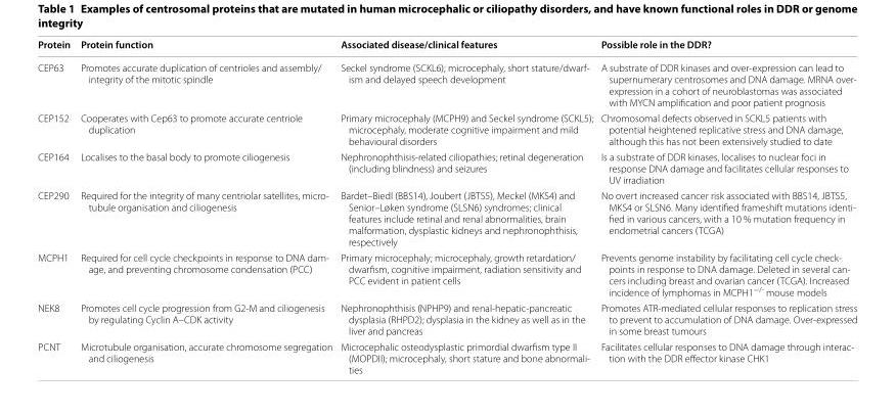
<table><thead><tr><td>Protein</td><td>Protein function</td><td>Associated disease/clinical features</td><td>Possible role in the DDR?</td></tr></thead><tbody><tr><td>CEP63</td><td>Promotes accurate duplication of centrioles and assembly/ integrity of the mitotic spindle</td><td>Seckel syndrome (SCKL6); microcephaly, short stature/dwarf- ism and delayed speech development</td><td>A substrate of DDR kinases and over-expression can lead to supernumerary centrosomes and DNA damage. MRNA over- expression in a cohort of neuroblastomas was associated with MYCN amplification and poor patient prognosis</td></tr><tr><td>CEP152</td><td>Cooperates with Cep63 to promote accurate centriole duplication</td><td>Primary microcephaly (MCPH9) and Seckel syndrome (SCKL5); microcephaly, moderate cognitive impairment and mild behavioural disorders</td><td>Chromosomal defects observed in SCKL5 patients with potential heightened replicative stress and DNA damage, although this has not been extensively studied to date</td></tr><tr><td>CEP164</td><td>Localises to the basal body to promote ciliogenesis</td><td>Nephronophthisis-related ciliopathies; retinal degeneration (including blindness) and seizures</td><td>Is a substrate of DDR kinases, localises to nuclear foci in response DNA damage and facilitates cellular responses to UV irradiation</td></tr><tr><td>CEP290</td><td>Required for the integrity of many centriolar satellites, micro- tubule organisation and ciliogenesis</td><td>Bardet–Biedl (BBS14), Joubert (JBTS5), Meckel (MKS4) and Senior–Løken syndrome (SLSN6) syndromes; clinical features include retinal and renal abnormalities, brain malformation, dysplastic kidneys and nephronophthisis, respectively</td><td>No overt increased cancer risk associated with BBS14, JBTS5, MKS4 or SLSN6. Many identified frameshift mutations identi- fied in various cancers, with a 10 % mutation frequency in endometrial cancers (TCGA)</td></tr><tr><td>MCPH1</td><td>Required for cell cycle checkpoints in response to DNA dam- age, and preventing chromosome condensation (PCC)</td><td>Primary microcephaly; microcephaly, growth retardation/ dwarfism, cognitive impairment, radiation sensitivity and PCC evident in patient cells</td><td>Prevents genome instability by facilitating cell cycle check- points in response to DNA damage. Deleted in several can- cers including breast and ovarian cancer (TCGA). Increased incidence of lymphomas in MCPH1−/- mouse models</td></tr><tr><td>NEK8</td><td>Promotes cell cycle progression from G2-M and ciliogenesis by regulating Cyclin A–CDK activity</td><td>Nephronophthisis (NPHP9) and renal-hepatic-pancreatic dysplasia (RHPD2); dysplasia in the kidney as well as in the liver and pancreas</td><td>Promotes ATR-mediated cellular responses to replication stress to prevent to accumulation of DNA damage. Over-expressed in some breast tumours</td></tr><tr><td>PCNT</td><td>Microtubule organisation, accurate chromosome segregation and ciliogenesis</td><td>Microcephalic osteodysplastic primordial dwarfism type II (MOPDII); microcephaly, short stature and bone abnormali- ties</td><td>Facilitates cellular responses to DNA damage through interac- tion with the DDR effector kinase CHK1</td></tr></tbody></table>